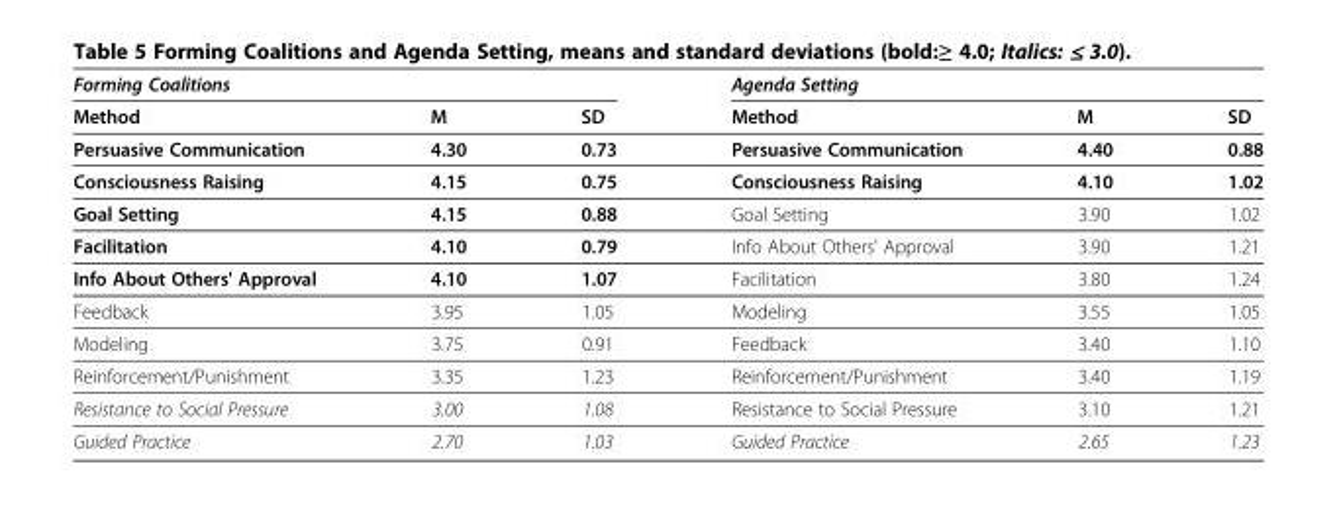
<table><thead><tr><td colspan="3">Forming Coalitions</td><td colspan="3">Agenda Setting</td></tr><tr><td>Method</td><td>M</td><td>SD</td><td>Method</td><td>M</td><td>SD</td></tr></thead><tbody><tr><td>Persuasive Communication</td><td>4.30</td><td>0.73</td><td>Persuasive Communication</td><td>4.40</td><td>0.88</td></tr><tr><td>Consciousness Raising</td><td>4.15</td><td>0.75</td><td>Consciousness Raising</td><td>4.10</td><td>1.02</td></tr><tr><td>Goal Setting</td><td>4.15</td><td>0.88</td><td>Goal Setting</td><td>3.90</td><td>1.02</td></tr><tr><td>Facilitation</td><td>4.10</td><td>0.79</td><td>Info About Others&#x27; Approval</td><td>3.90</td><td>1.21</td></tr><tr><td>Info About Others&#x27; Approval</td><td>4.10</td><td>1.07</td><td>Facilitation</td><td>3.80</td><td>1.24</td></tr><tr><td>Feedback</td><td>3.95</td><td>1.05</td><td>Modeling</td><td>3.55</td><td>1.05</td></tr><tr><td>Modeling</td><td>3.75</td><td>0.91</td><td>Feedback</td><td>3.40</td><td>1.10</td></tr><tr><td>Reinforcement/Punishment</td><td>3.35</td><td>1.23</td><td>Reinforcement/Punishment</td><td>3.40</td><td>1.19</td></tr><tr><td>Resistance to Social Pressure</td><td>3.00</td><td>1.08</td><td>Resistance to Social Pressure</td><td>3.10</td><td>1.21</td></tr><tr><td>Guided Practice</td><td>2.70</td><td>1.03</td><td>Guided Practice</td><td>2.65</td><td>1.23</td></tr></tbody></table>